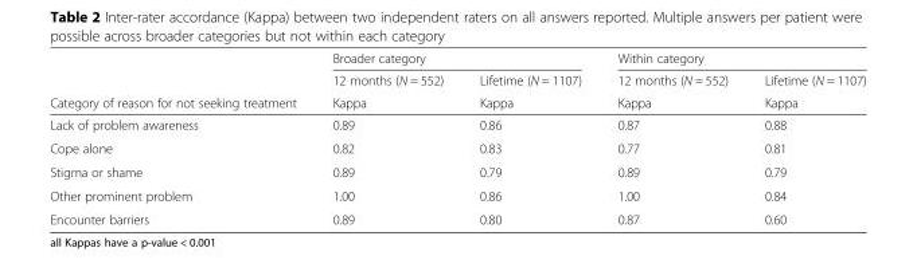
<table><thead><tr><td rowspan="3">Category of reason for not seeking treatment</td><td colspan="2">Broader category</td><td colspan="2">Within category</td></tr><tr><td rowspan="2">12 months (N = 552) Kappa</td><td rowspan="2">Lifetime (N = 1107) Kappa</td><td rowspan="2">12 months (N = 552) Kappa</td><td rowspan="2">Lifetime (N = 1107) Kappa</td></tr><tr></tr></thead><tbody><tr><td>Lack of problem awareness</td><td>0.89</td><td>0.86</td><td>0.87</td><td>0.88</td></tr><tr><td>Cope alone</td><td>0.82</td><td>0.83</td><td>0.77</td><td>0.81</td></tr><tr><td>Stigma or shame</td><td>0.89</td><td>0.79</td><td>0.89</td><td>0.79</td></tr><tr><td>Other prominent problem</td><td>1.00</td><td>0.86</td><td>1.00</td><td>0.84</td></tr><tr><td>Encounter barriers</td><td>0.89</td><td>0.80</td><td>0.87</td><td>0.60</td></tr></tbody></table>